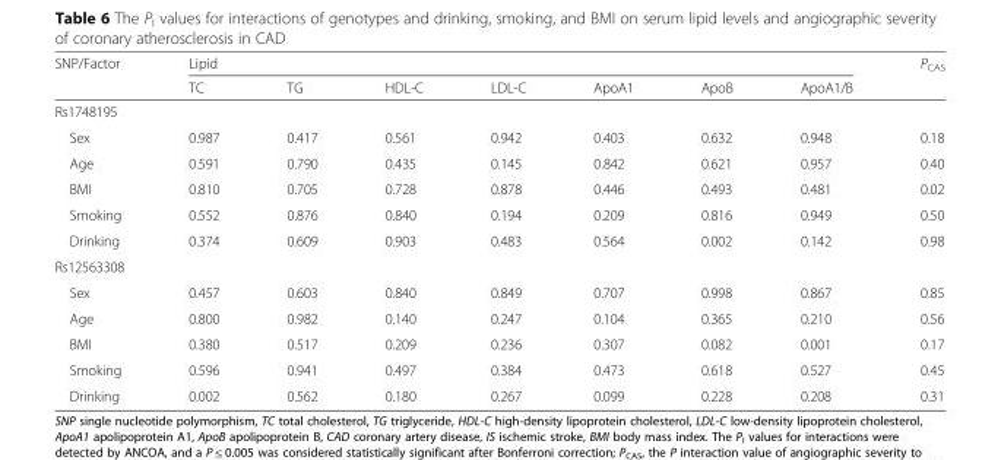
<table><thead><tr><td rowspan="2">SNP/Factor</td><td colspan="7">Lipid</td><td rowspan="2">P<sub>CAS</sub></td></tr><tr><td>TC</td><td>TG</td><td>HDL-C</td><td>LDL-C</td><td>ApoA1</td><td>ApoB</td><td>ApoA1/B</td></tr></thead><tbody><tr><td colspan="9">Rs1748195</td></tr><tr><td>Sex</td><td>0.987</td><td>0.417</td><td>0.561</td><td>0.942</td><td>0.403</td><td>0.632</td><td>0.948</td><td>0.18</td></tr><tr><td>Age</td><td>0.591</td><td>0.790</td><td>0.435</td><td>0.145</td><td>0.842</td><td>0.621</td><td>0.957</td><td>0.40</td></tr><tr><td>BMI</td><td>0.810</td><td>0.705</td><td>0.728</td><td>0.878</td><td>0.446</td><td>0.493</td><td>0.481</td><td>0.02</td></tr><tr><td>Smoking</td><td>0.552</td><td>0.876</td><td>0.840</td><td>0.194</td><td>0.209</td><td>0.816</td><td>0.949</td><td>0.50</td></tr><tr><td>Drinking</td><td>0.374</td><td>0.609</td><td>0.903</td><td>0.483</td><td>0.564</td><td>0.002</td><td>0.142</td><td>0.98</td></tr><tr><td colspan="9">Rs12563308</td></tr><tr><td>Sex</td><td>0.457</td><td>0.603</td><td>0.840</td><td>0.849</td><td>0.707</td><td>0.998</td><td>0.867</td><td>0.85</td></tr><tr><td>Age</td><td>0.800</td><td>0.982</td><td>0.140</td><td>0.247</td><td>0.104</td><td>0.365</td><td>0.210</td><td>0.56</td></tr><tr><td>BMI</td><td>0.380</td><td>0.517</td><td>0.209</td><td>0.236</td><td>0.307</td><td>0.082</td><td>0.001</td><td>0.17</td></tr><tr><td>Smoking</td><td>0.596</td><td>0.941</td><td>0.497</td><td>0.384</td><td>0.473</td><td>0.618</td><td>0.527</td><td>0.45</td></tr><tr><td>Drinking</td><td>0.002</td><td>0.562</td><td>0.180</td><td>0.267</td><td>0.099</td><td>0.228</td><td>0.208</td><td>0.31</td></tr></tbody></table>